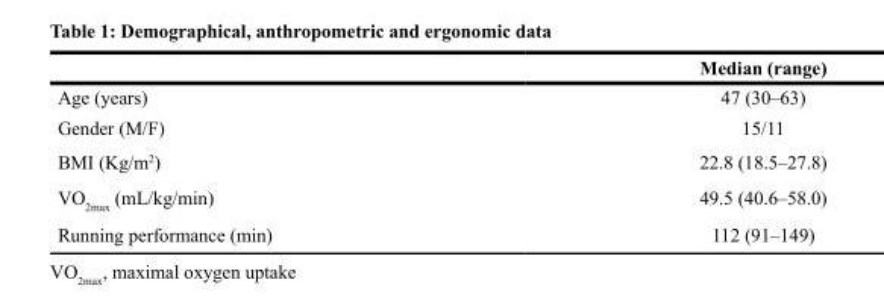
<table><thead><tr><td></td><td>Median (range)</td></tr></thead><tbody><tr><td>Age (years)</td><td>47 (30–63)</td></tr><tr><td>Gender (M/F)</td><td>15/11</td></tr><tr><td>BMI (Kg/m<sup>2</sup>)</td><td>22.8 (18.5–27.8)</td></tr><tr><td>VO<sub>2max</sub> (mL/kg/min)</td><td>49.5 (40.6–58.0)</td></tr><tr><td>Running performance (min)</td><td>112 (91–149)</td></tr></tbody></table>